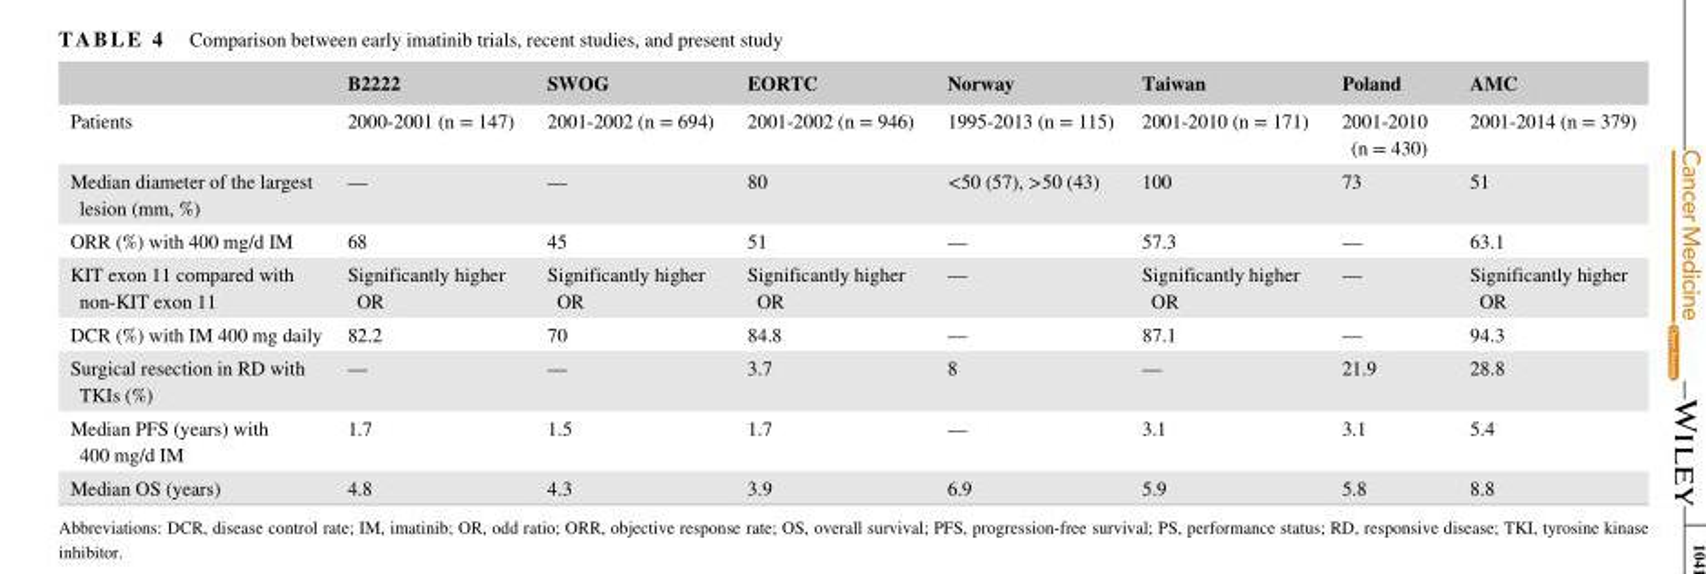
<table><thead><tr><td></td><td>B2222</td><td>SWOG</td><td>EORTC</td><td>Norway</td><td>Taiwan</td><td>Poland</td><td>AMC</td></tr></thead><tbody><tr><td>Patients</td><td>2000‐2001 (n = 147)</td><td>2001‐2002 (n = 694)</td><td>2001‐2002 (n = 946)</td><td>1995‐2013 (n = 115)</td><td>2001‐2010 (n = 171)</td><td>2001‐2010 (n = 430)</td><td>2001‐2014 (n = 379)</td></tr><tr><td>Median diameter of the largest lesion (mm, %)</td><td>—</td><td>—</td><td>80</td><td>&lt;50 (57), &gt;50 (43)</td><td>100</td><td>73</td><td>51</td></tr><tr><td>ORR (%) with 400 mg/d IM</td><td>68</td><td>45</td><td>51</td><td>—</td><td>57.3</td><td>—</td><td>63.1</td></tr><tr><td>KIT exon 11 compared with non‐KIT exon 11</td><td>Significantly higher OR</td><td>Significantly higher OR</td><td>Significantly higher OR</td><td>—</td><td>Significantly higher OR</td><td>—</td><td>Significantly higher OR</td></tr><tr><td>DCR (%) with IM 400 mg daily</td><td>82.2</td><td>70</td><td>84.8</td><td>—</td><td>87.1</td><td>—</td><td>94.3</td></tr><tr><td>Surgical resection in RD with TKIs (%)</td><td>—</td><td>—</td><td>3.7</td><td>8</td><td>—</td><td>21.9</td><td>28.8</td></tr><tr><td>Median PFS (years) with 400 mg/d IM</td><td>1.7</td><td>1.5</td><td>1.7</td><td>—</td><td>3.1</td><td>3.1</td><td>5.4</td></tr><tr><td>Median OS (years)</td><td>4.8</td><td>4.3</td><td>3.9</td><td>6.9</td><td>5.9</td><td>5.8</td><td>8.8</td></tr></tbody></table>